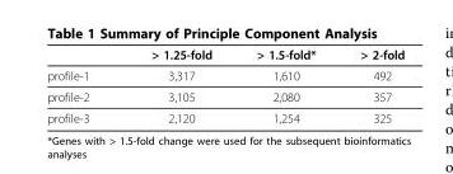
<table><thead><tr><td></td><td>&gt; 1.25-fold</td><td>&gt; 1.5-fold*</td><td>&gt; 2-fold</td></tr></thead><tbody><tr><td>profile-1</td><td>3,317</td><td>1,610</td><td>492</td></tr><tr><td>profile-2</td><td>3,105</td><td>2,080</td><td>357</td></tr><tr><td>profile-3</td><td>2,120</td><td>1,254</td><td>325</td></tr></tbody></table>